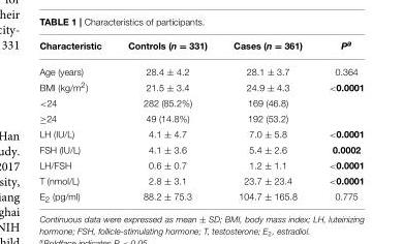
<table><thead><tr><td>Characteristic</td><td>Controls (n = 331)</td><td>Cases (n = 361)</td><td>P<sup>a</sup></td></tr></thead><tbody><tr><td>Age (years)</td><td>28.4 ± 4.2</td><td>28.1 ± 3.7</td><td>0.364</td></tr><tr><td>BMI (kg/m<sup>2</sup>)</td><td>21.5 ± 3.4</td><td>24.9 ± 4.3</td><td>&lt;0.0001</td></tr><tr><td>&lt;24</td><td>282 (85.2%)</td><td>169 (46.8)</td><td></td></tr><tr><td>≥24</td><td>49 (14.8%)</td><td>192 (53.2)</td><td></td></tr><tr><td>LH (IU/L)</td><td>4.1 ± 4.7</td><td>7.0 ± 5.8</td><td>&lt;0.0001</td></tr><tr><td>FSH (IU/L)</td><td>4.1 ± 3.6</td><td>5.4 ± 2.6</td><td>0.0002</td></tr><tr><td>LH/FSH</td><td>0.6 ± 0.7</td><td>1.2 ± 1.1</td><td>&lt;0.0001</td></tr><tr><td>T (nmol/L)</td><td>2.8 ± 3.1</td><td>23.7 ± 23.4</td><td>&lt;0.0001</td></tr><tr><td>E<sub>2</sub> (pg/ml)</td><td>88.2 ± 75.3</td><td>104.7 ± 165.8</td><td>0.775</td></tr></tbody></table>